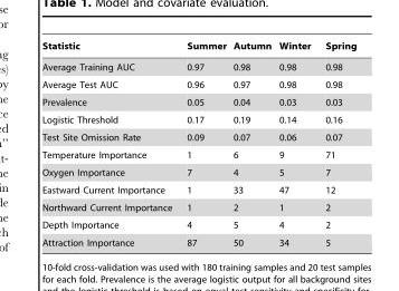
<table><thead><tr><td>Statistic</td><td>Summer</td><td>Autumn</td><td>Winter</td><td>Spring</td></tr></thead><tbody><tr><td>Average Training AUC</td><td>0.97</td><td>0.98</td><td>0.98</td><td>0.98</td></tr><tr><td>Average Test AUC</td><td>0.96</td><td>0.97</td><td>0.98</td><td>0.98</td></tr><tr><td>Prevalence</td><td>0.05</td><td>0.04</td><td>0.03</td><td>0.03</td></tr><tr><td>Logistic Threshold</td><td>0.17</td><td>0.19</td><td>0.14</td><td>0.16</td></tr><tr><td>Test Site Omission Rate</td><td>0.09</td><td>0.07</td><td>0.06</td><td>0.07</td></tr><tr><td>Temperature Importance</td><td>1</td><td>6</td><td>9</td><td>71</td></tr><tr><td>Oxygen Importance</td><td>7</td><td>4</td><td>5</td><td>7</td></tr><tr><td>Eastward Current Importance</td><td>1</td><td>33</td><td>47</td><td>12</td></tr><tr><td>Northward Current Importance</td><td>1</td><td>2</td><td>1</td><td>2</td></tr><tr><td>Depth Importance</td><td>4</td><td>5</td><td>4</td><td>2</td></tr><tr><td>Attraction Importance</td><td>87</td><td>50</td><td>34</td><td>5</td></tr></tbody></table>